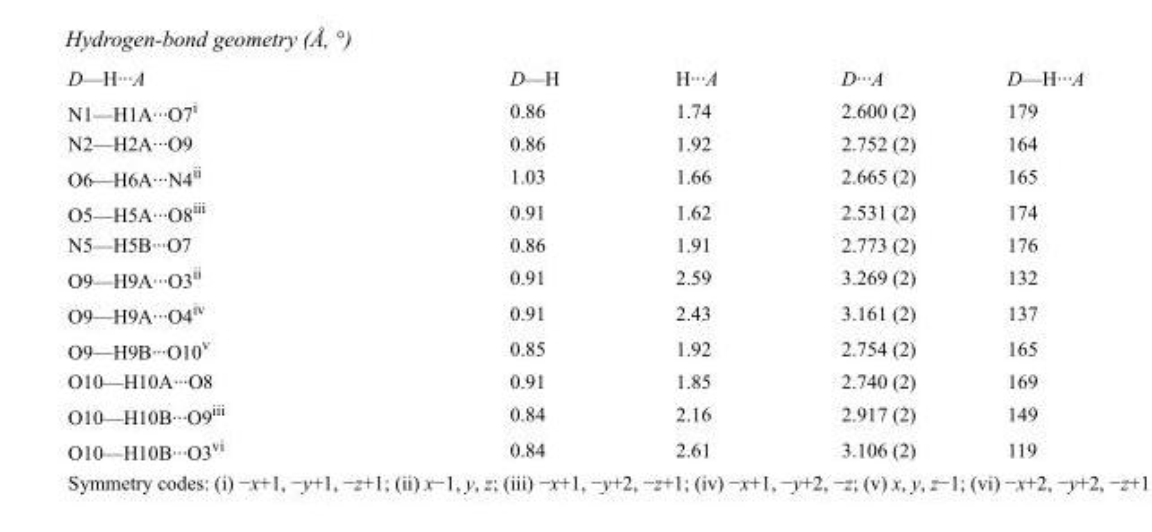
<table><tbody><tr><td>D—H···A</td><td>D—H</td><td>H···A</td><td>D···A</td><td>D—H···A</td></tr><tr><td>N1—H1A···O7<sup>i</sup></td><td>0.86</td><td>1.74</td><td>2.600 (2)</td><td>179</td></tr><tr><td>N2—H2A···O9</td><td>0.86</td><td>1.92</td><td>2.752 (2)</td><td>164</td></tr><tr><td>O6—H6A···N4<sup>ii</sup></td><td>1.03</td><td>1.66</td><td>2.665 (2)</td><td>165</td></tr><tr><td>O5—H5A···O8<sup>iii</sup></td><td>0.91</td><td>1.62</td><td>2.531 (2)</td><td>174</td></tr><tr><td>N5—H5B···O7</td><td>0.86</td><td>1.91</td><td>2.773 (2)</td><td>176</td></tr><tr><td>O9—H9A···O3<sup>ii</sup></td><td>0.91</td><td>2.59</td><td>3.269 (2)</td><td>132</td></tr><tr><td>O9—H9A···O4<sup>iv</sup></td><td>0.91</td><td>2.43</td><td>3.161 (2)</td><td>137</td></tr><tr><td>O9—H9B···O10<sup>v</sup></td><td>0.85</td><td>1.92</td><td>2.754 (2)</td><td>165</td></tr><tr><td>O10—H10A···O8</td><td>0.91</td><td>1.85</td><td>2.740 (2)</td><td>169</td></tr><tr><td>O10—H10B···O9<sup>iii</sup></td><td>0.84</td><td>2.16</td><td>2.917 (2)</td><td>149</td></tr><tr><td>O10—H10B···O3<sup>vi</sup></td><td>0.84</td><td>2.61</td><td>3.106 (2)</td><td>119</td></tr></tbody></table>